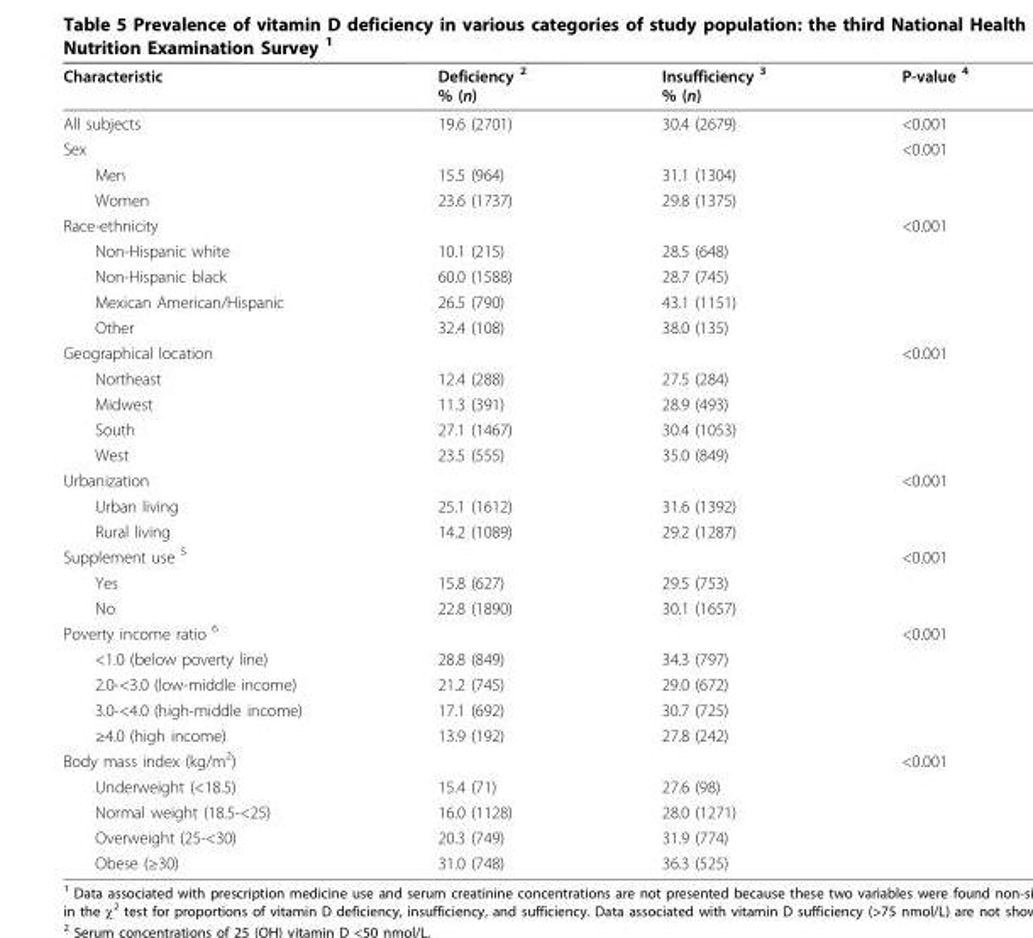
<table><thead><tr><td>Characteristic</td><td>Deficiency <sup>2</sup> % (n)</td><td>Insufficiency <sup>3</sup> % (n)</td><td>P-value <sup>4</sup></td></tr></thead><tbody><tr><td>All subjects</td><td>19.6 (2701)</td><td>30.4 (2679)</td><td>&lt;0.001</td></tr><tr><td>Sex</td><td></td><td></td><td>&lt;0.001</td></tr><tr><td>Men</td><td>15.5 (964)</td><td>31.1 (1304)</td><td></td></tr><tr><td>Women</td><td>23.6 (1737)</td><td>29.8 (1375)</td><td></td></tr><tr><td>Race-ethnicity</td><td></td><td></td><td>&lt;0.001</td></tr><tr><td>Non-Hispanic white</td><td>10.1 (215)</td><td>28.5 (648)</td><td></td></tr><tr><td>Non-Hispanic black</td><td>60.0 (1588)</td><td>28.7 (745)</td><td></td></tr><tr><td>Mexican American/Hispanic</td><td>26.5 (790)</td><td>43.1 (1151)</td><td></td></tr><tr><td>Other</td><td>32.4 (108)</td><td>38.0 (135)</td><td></td></tr><tr><td>Geographical location</td><td></td><td></td><td>&lt;0.001</td></tr><tr><td>Northeast</td><td>12.4 (288)</td><td>27.5 (284)</td><td></td></tr><tr><td>Midwest</td><td>11.3 (391)</td><td>28.9 (493)</td><td></td></tr><tr><td>South</td><td>27.1 (1467)</td><td>30.4 (1053)</td><td></td></tr><tr><td>West</td><td>23.5 (555)</td><td>35.0 (849)</td><td></td></tr><tr><td>Urbanization</td><td></td><td></td><td>&lt;0.001</td></tr><tr><td>Urban living</td><td>25.1 (1612)</td><td>31.6 (1392)</td><td></td></tr><tr><td>Rural living</td><td>14.2 (1089)</td><td>29.2 (1287)</td><td></td></tr><tr><td>Supplement use <sup>5</sup></td><td></td><td></td><td>&lt;0.001</td></tr><tr><td>Yes</td><td>15.8 (627)</td><td>29.5 (753)</td><td></td></tr><tr><td>No</td><td>22.8 (1890)</td><td>30.1 (1657)</td><td></td></tr><tr><td>Poverty income ratio <sup>6</sup></td><td></td><td></td><td>&lt;0.001</td></tr><tr><td>&lt;1.0 (below poverty line)</td><td>28.8 (849)</td><td>34.3 (797)</td><td></td></tr><tr><td>2.0-&lt;3.0 (low-middle income)</td><td>21.2 (745)</td><td>29.0 (672)</td><td></td></tr><tr><td>3.0-&lt;4.0 (high-middle income)</td><td>17.1 (692)</td><td>30.7 (725)</td><td></td></tr><tr><td>≥4.0 (high income)</td><td>13.9 (192)</td><td>27.8 (242)</td><td></td></tr><tr><td>Body mass index (kg/m<sup>2</sup>)</td><td></td><td></td><td>&lt;0.001</td></tr><tr><td>Underweight (&lt;18.5)</td><td>15.4 (71)</td><td>27.6 (98)</td><td></td></tr><tr><td>Normal weight (18.5-&lt;25)</td><td>16.0 (1128)</td><td>28.0 (1271)</td><td></td></tr><tr><td>Overweight (25-&lt;30)</td><td>20.3 (749)</td><td>31.9 (774)</td><td></td></tr><tr><td>Obese (≥30)</td><td>31.0 (748)</td><td>36.3 (525)</td><td></td></tr></tbody></table>